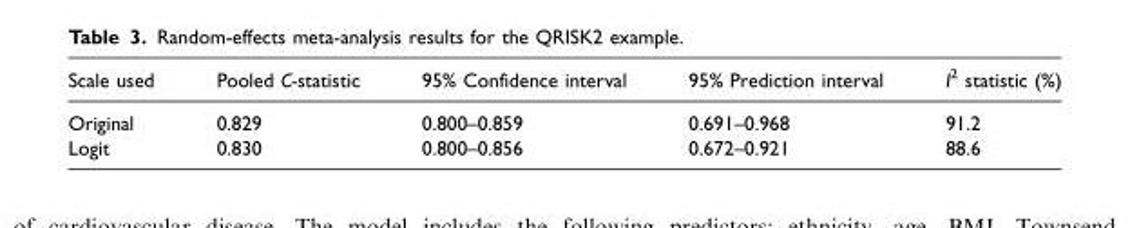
<table><thead><tr><td>Scale used</td><td>Pooled C-statistic</td><td>95% Confidence interval</td><td>95% Prediction interval</td><td>I<sup>2</sup> statistic (%)</td></tr></thead><tbody><tr><td>Original</td><td>0.829</td><td>0.800–0.859</td><td>0.691–0.968</td><td>91.2</td></tr><tr><td>Logit</td><td>0.830</td><td>0.800–0.856</td><td>0.672–0.921</td><td>88.6</td></tr></tbody></table>